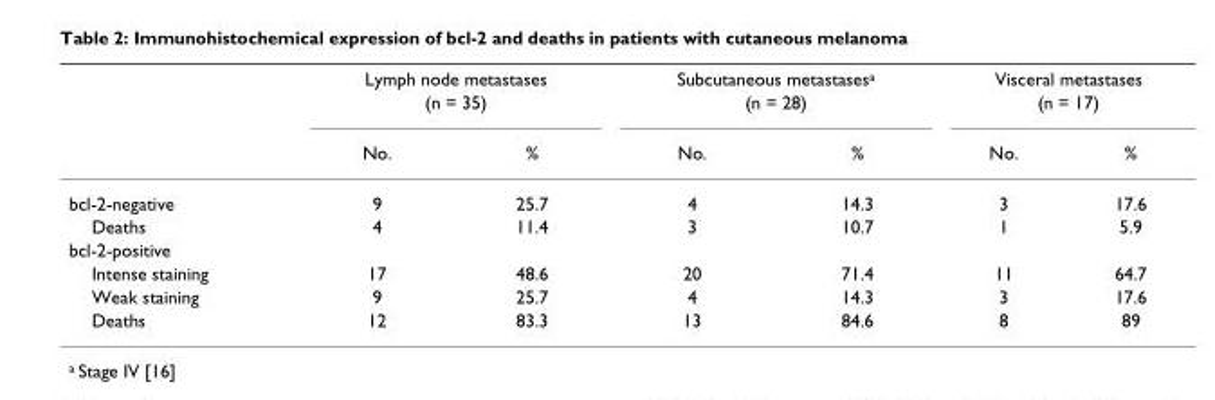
<table><thead><tr><td rowspan="3"></td><td rowspan="2" colspan="2">Lymph node metastases (n = 35)</td><td rowspan="2" colspan="2">Subcutaneous metastases<sup>a</sup> (n = 28)</td><td rowspan="2" colspan="2">Visceral metastases (n = 17)</td></tr><tr></tr><tr><td>No.</td><td>%</td><td>No.</td><td>%</td><td>No.</td><td>%</td></tr></thead><tbody><tr><td>bcl-2-negative</td><td>9</td><td>25.7</td><td>4</td><td>14.3</td><td>3</td><td>17.6</td></tr><tr><td>Deaths</td><td>4</td><td>11.4</td><td>3</td><td>10.7</td><td>1</td><td>5.9</td></tr><tr><td colspan="7">bcl-2-positive</td></tr><tr><td>Intense staining</td><td>17</td><td>48.6</td><td>20</td><td>71.4</td><td>11</td><td>64.7</td></tr><tr><td>Weak staining</td><td>9</td><td>25.7</td><td>4</td><td>14.3</td><td>3</td><td>17.6</td></tr><tr><td>Deaths</td><td>12</td><td>83.3</td><td>13</td><td>84.6</td><td>8</td><td>89</td></tr></tbody></table>